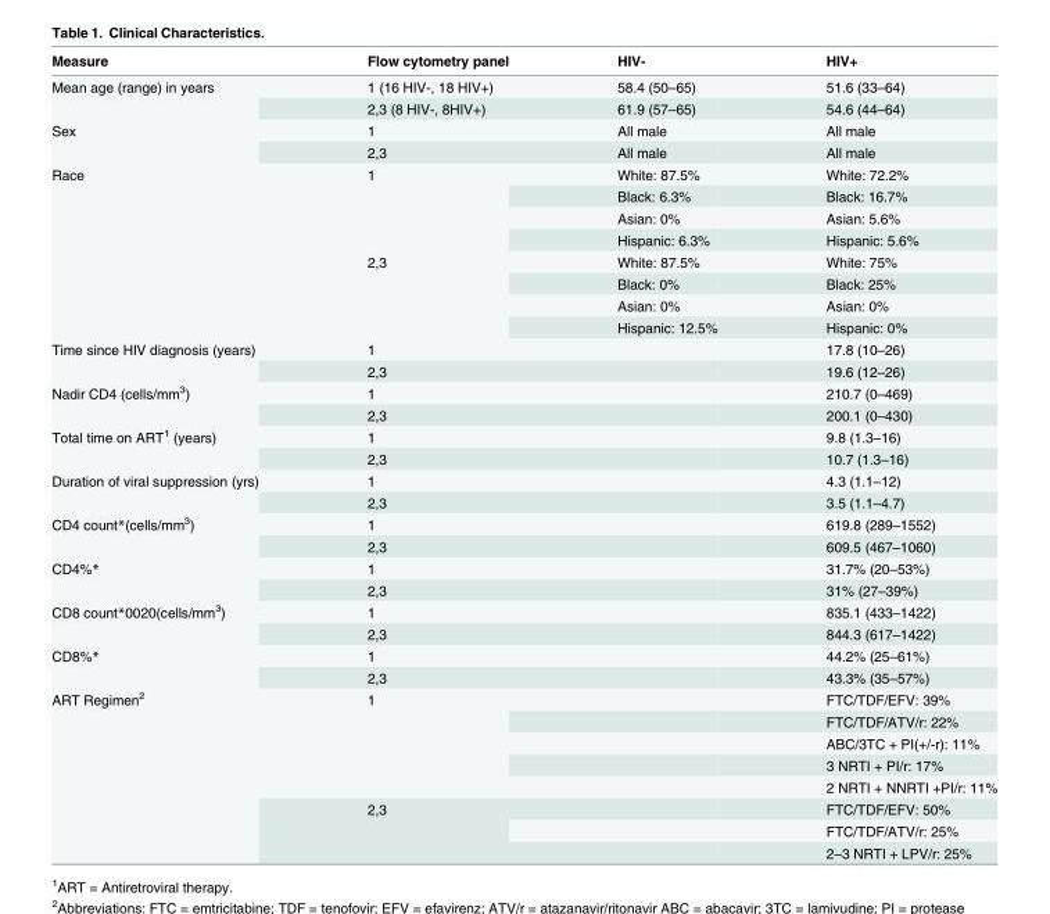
<table><thead><tr><td>Measure</td><td>Flow cytometry panel</td><td>HIV-</td><td>HIV+</td></tr></thead><tbody><tr><td rowspan="2">Mean age (range) in years</td><td>1 (16 HIV-, 18 HIV+)</td><td>58.4 (50–65)</td><td>51.6 (33–64)</td></tr><tr><td>2,3 (8 HIV-, 8HIV+)</td><td>61.9 (57–65)</td><td>54.6 (44–64)</td></tr><tr><td rowspan="2">Sex</td><td>1</td><td>All male</td><td>All male</td></tr><tr><td>2,3</td><td>All male</td><td>All male</td></tr><tr><td rowspan="8">Race</td><td rowspan="4">1</td><td>White: 87.5%</td><td>White: 72.2%</td></tr><tr><td>Black: 6.3%</td><td>Black: 16.7%</td></tr><tr><td>Asian: 0%</td><td>Asian: 5.6%</td></tr><tr><td>Hispanic: 6.3%</td><td>Hispanic: 5.6%</td></tr><tr><td rowspan="4">2,3</td><td>White: 87.5%</td><td>White: 75%</td></tr><tr><td>Black: 0%</td><td>Black: 25%</td></tr><tr><td>Asian: 0%</td><td>Asian: 0%</td></tr><tr><td>Hispanic: 12.5%</td><td>Hispanic: 0%</td></tr><tr><td rowspan="2">Time since HIV diagnosis (years)</td><td>1</td><td></td><td>17.8 (10–26)</td></tr><tr><td>2,3</td><td></td><td>19.6 (12–26)</td></tr><tr><td rowspan="2">Nadir CD4 (cells/mm<sup>3</sup>)</td><td>1</td><td></td><td>210.7 (0–469)</td></tr><tr><td>2,3</td><td></td><td>200.1 (0–430)</td></tr><tr><td rowspan="2">Total time on ART<sup>1</sup> (years)</td><td>1</td><td></td><td>9.8 (1.3–16)</td></tr><tr><td>2,3</td><td></td><td>10.7 (1.3–16)</td></tr><tr><td rowspan="2">Duration of viral suppression (yrs)</td><td>1</td><td></td><td>4.3 (1.1–12)</td></tr><tr><td>2,3</td><td></td><td>3.5 (1.1–4.7)</td></tr><tr><td rowspan="2">CD4 count*(cells/mm<sup>3</sup>)</td><td>1</td><td></td><td>619.8 (289–1552)</td></tr><tr><td>2,3</td><td></td><td>609.5 (467–1060)</td></tr><tr><td rowspan="2">CD4%*</td><td>1</td><td></td><td>31.7% (20–53%)</td></tr><tr><td>2,3</td><td></td><td>31% (27–39%)</td></tr><tr><td rowspan="2">CD8 count*0020(cells/mm<sup>3</sup>)</td><td>1</td><td></td><td>835.1 (433–1422)</td></tr><tr><td>2,3</td><td></td><td>844.3 (617–1422)</td></tr><tr><td rowspan="2">CD8%*</td><td>1</td><td></td><td>44.2% (25–61%)</td></tr><tr><td>2,3</td><td></td><td>43.3% (35–57%)</td></tr><tr><td rowspan="8">ART Regimen<sup>2</sup></td><td rowspan="5">1</td><td></td><td>FTC/TDF/EFV: 39%</td></tr><tr><td></td><td>FTC/TDF/ATV/r: 22%</td></tr><tr><td></td><td>ABC/3TC + PI(+/-r): 11%</td></tr><tr><td></td><td>3 NRTI + PI/r: 17%</td></tr><tr><td></td><td>2 NRTI + NNRTI +PI/r: 11%</td></tr><tr><td rowspan="3">2,3</td><td></td><td>FTC/TDF/EFV: 50%</td></tr><tr><td></td><td>FTC/TDF/ATV/r: 25%</td></tr><tr><td></td><td>2–3 NRTI + LPV/r: 25%</td></tr></tbody></table>